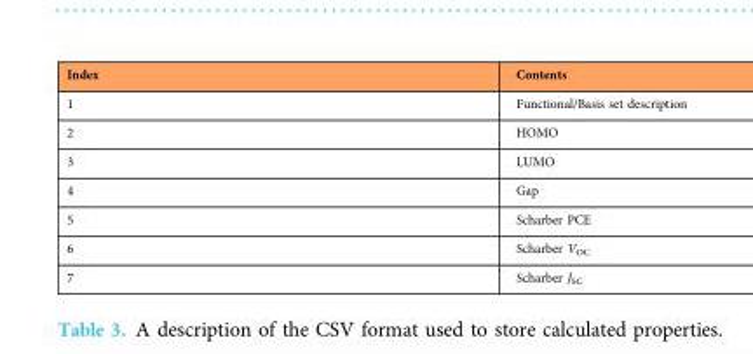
<table><thead><tr><td>Index</td><td>Contents</td></tr></thead><tbody><tr><td>1</td><td>Functional/Basis set description</td></tr><tr><td>2</td><td>HOMO</td></tr><tr><td>3</td><td>LUMO</td></tr><tr><td>4</td><td>Gap</td></tr><tr><td>5</td><td>Scharber PCE</td></tr><tr><td>6</td><td>Scharber V<sub>OC</sub></td></tr><tr><td>7</td><td>Scharber J<sub>SC</sub></td></tr></tbody></table>